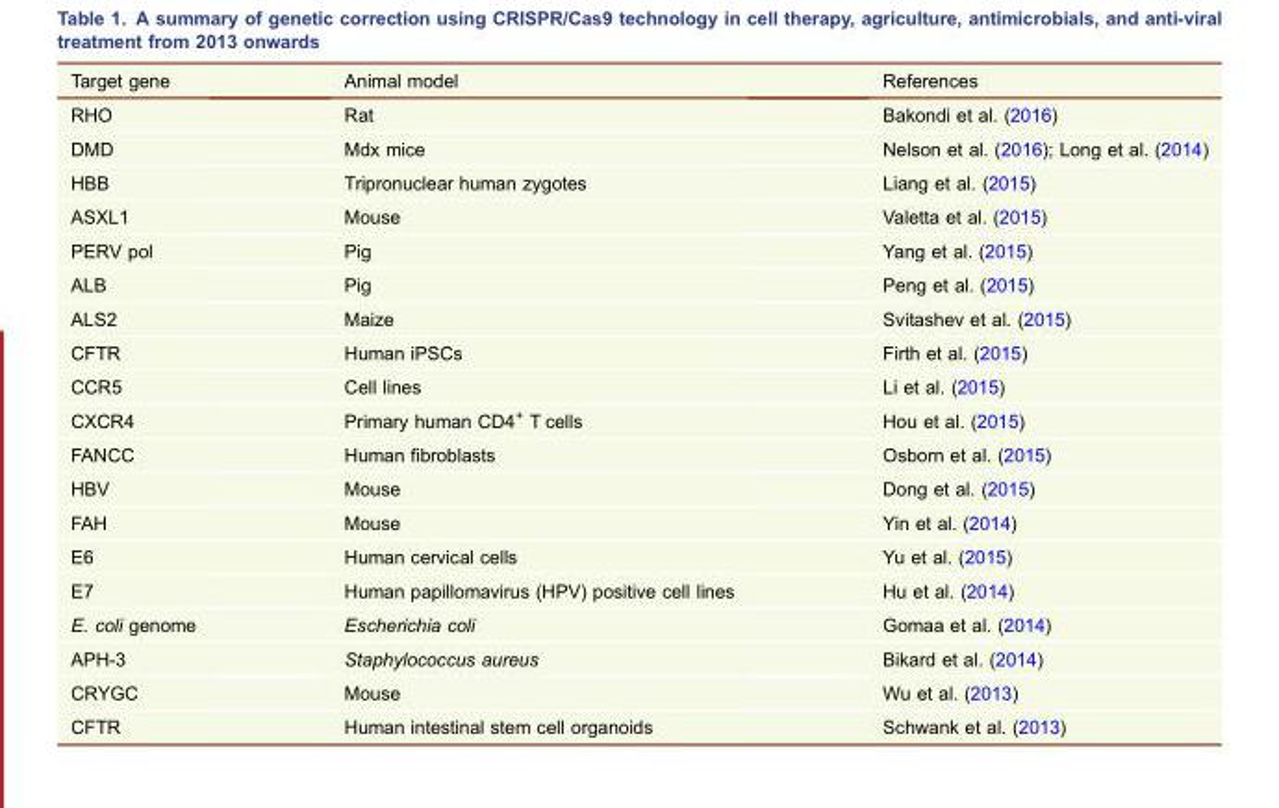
<table><thead><tr><td>Target gene</td><td>Animal model</td><td>References</td></tr></thead><tbody><tr><td>RHO</td><td>Rat</td><td>Bakondi et al. (2016)</td></tr><tr><td>DMD</td><td>Mdx mice</td><td>Nelson et al. (2016); Long et al. (2014)</td></tr><tr><td>HBB</td><td>Tripronuclear human zygotes</td><td>Liang et al. (2015)</td></tr><tr><td>ASXL1</td><td>Mouse</td><td>Valetta et al. (2015)</td></tr><tr><td>PERV pol</td><td>Pig</td><td>Yang et al. (2015)</td></tr><tr><td>ALB</td><td>Pig</td><td>Peng et al. (2015)</td></tr><tr><td>ALS2</td><td>Maize</td><td>Svitashev et al. (2015)</td></tr><tr><td>CFTR</td><td>Human iPSCs</td><td>Firth et al. (2015)</td></tr><tr><td>CCR5</td><td>Cell lines</td><td>Li et al. (2015)</td></tr><tr><td>CXCR4</td><td>Primary human CD4<sup>+</sup> T cells</td><td>Hou et al. (2015)</td></tr><tr><td>FANCC</td><td>Human fibroblasts</td><td>Osborn et al. (2015)</td></tr><tr><td>HBV</td><td>Mouse</td><td>Dong et al. (2015)</td></tr><tr><td>FAH</td><td>Mouse</td><td>Yin et al. (2014)</td></tr><tr><td>E6</td><td>Human cervical cells</td><td>Yu et al. (2015)</td></tr><tr><td>E7</td><td>Human papillomavirus (HPV) positive cell lines</td><td>Hu et al. (2014)</td></tr><tr><td>E. coli genome</td><td>Escherichia coli</td><td>Gomaa et al. (2014)</td></tr><tr><td>APH-3</td><td>Staphylococcus aureus</td><td>Bikard et al. (2014)</td></tr><tr><td>CRYGC</td><td>Mouse</td><td>Wu et al. (2013)</td></tr><tr><td>CFTR</td><td>Human intestinal stem cell organoids</td><td>Schwank et al. (2013)</td></tr></tbody></table>